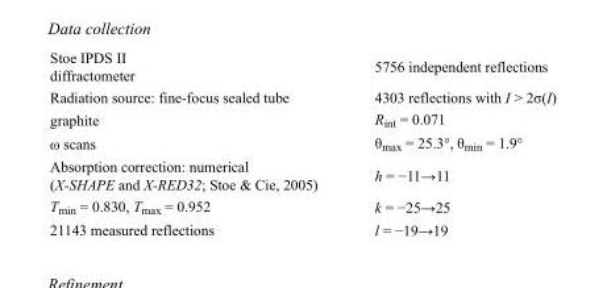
<table><tbody><tr><td>Stoe IPDS II diffractometer</td><td>5756 independent reflections</td></tr><tr><td>Radiation source: fine-focus sealed tube</td><td>4303 reflections with I &gt; 2σ(I)</td></tr><tr><td>graphite</td><td>R<sub>int</sub> = 0.071</td></tr><tr><td>ω scans</td><td>θ<sub>max</sub> = 25.3°, θ<sub>min</sub> = 1.9°</td></tr><tr><td>Absorption correction: numerical (X-SHAPE and X-RED32; Stoe &amp; Cie, 2005)</td><td>h = −11→11</td></tr><tr><td>T<sub>min</sub> = 0.830, T<sub>max</sub> = 0.952</td><td>k = −25→25</td></tr><tr><td>21143 measured reflections</td><td>l = −19→19</td></tr></tbody></table>